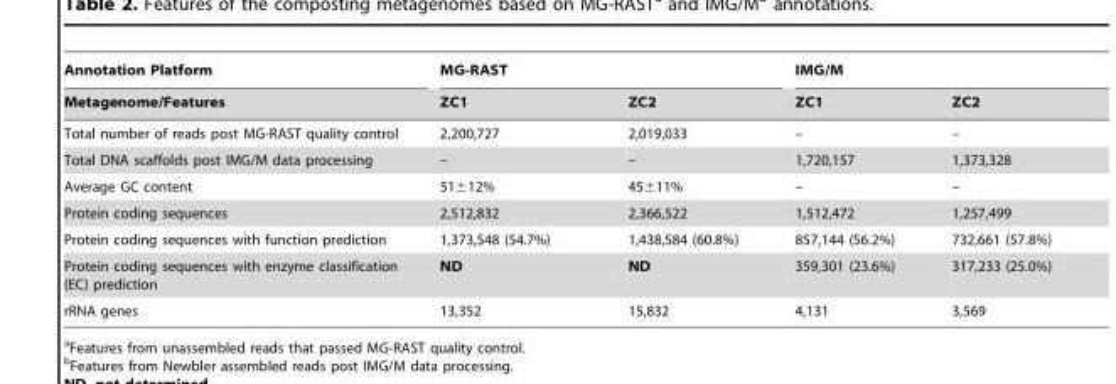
<table><thead><tr><td rowspan="2">Annotation Platform Metagenome/Features</td><td colspan="2">MG-RAST</td><td colspan="2">IMG/M</td></tr><tr><td>ZC1</td><td>ZC2</td><td>ZC1</td><td>ZC2</td></tr></thead><tbody><tr><td>Total number of reads post MG-RAST quality control</td><td>2,200,727</td><td>2,019,033</td><td>–</td><td>–</td></tr><tr><td>Total DNA scaffolds post IMG/M data processing</td><td>–</td><td>–</td><td>1,720,157</td><td>1,373,328</td></tr><tr><td>Average GC content</td><td>51±12%</td><td>45±11%</td><td>–</td><td>–</td></tr><tr><td>Protein coding sequences</td><td>2,512,832</td><td>2,366,522</td><td>1,512,472</td><td>1,257,499</td></tr><tr><td>Protein coding sequences with function prediction</td><td>1,373,548 (54.7%)</td><td>1,438,584 (60.8%)</td><td>857,144 (56.2%)</td><td>732,661 (57.8%)</td></tr><tr><td>Protein coding sequences with enzyme classification (EC) prediction</td><td>ND</td><td>ND</td><td>359,301 (23.6%)</td><td>317,233 (25.0%)</td></tr><tr><td>rRNA genes</td><td>13,352</td><td>15,832</td><td>4,131</td><td>3,569</td></tr></tbody></table>